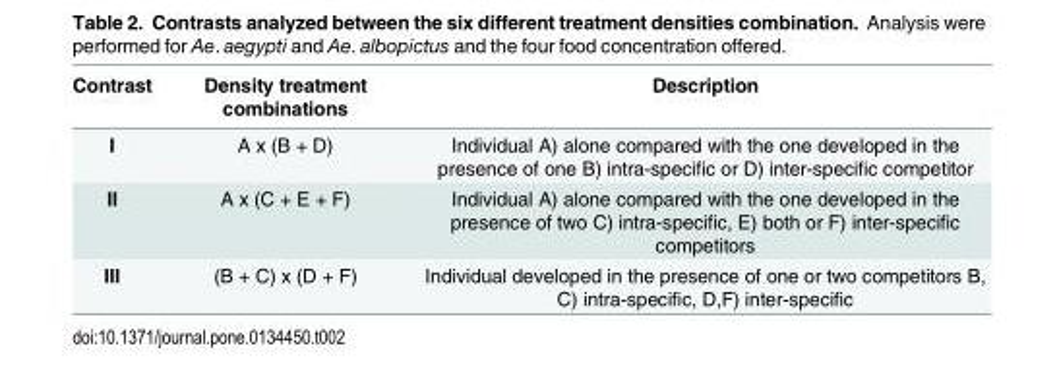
<table><thead><tr><td>Contrast</td><td>Density treatment combinations</td><td>Description</td></tr></thead><tbody><tr><td>I</td><td>A x (B + D)</td><td>Individual A) alone compared with the one developed in the presence of one B) intra-specific or D) inter-specific competitor</td></tr><tr><td>II</td><td>A x (C + E + F)</td><td>Individual A) alone compared with the one developed in the presence of two C) intra-specific, E) both or F) inter-specific competitors</td></tr><tr><td>III</td><td>(B + C) x (D + F)</td><td>Individual developed in the presence of one or two competitors B, C) intra-specific, D,F) inter-specific</td></tr></tbody></table>